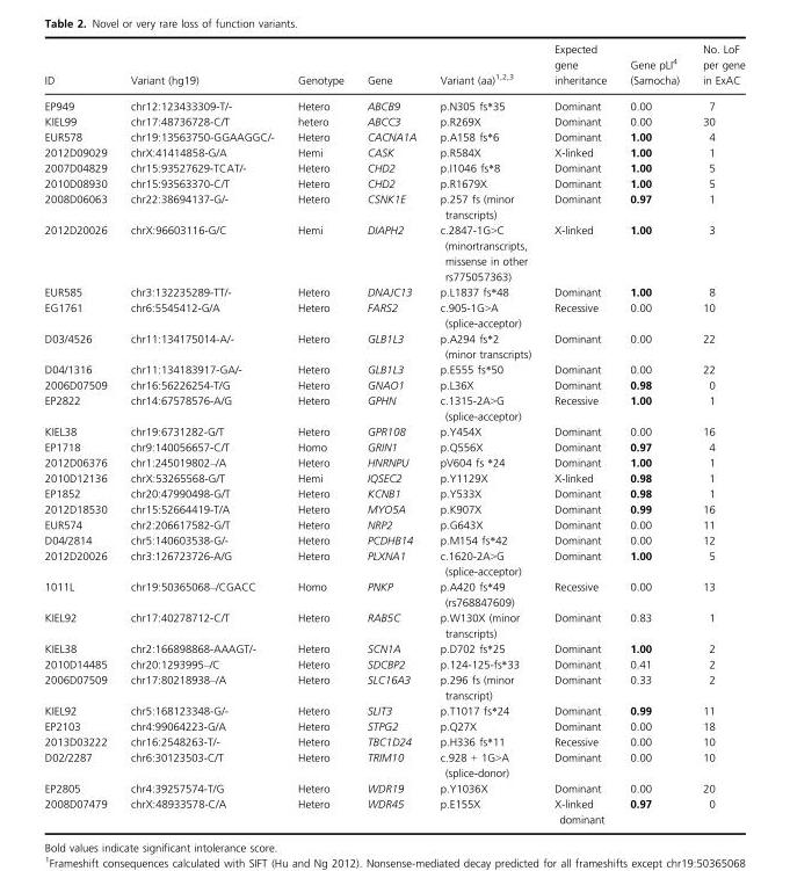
<table><thead><tr><td>ID</td><td>Variant (hg19)</td><td>Genotype</td><td>Gene</td><td>Variant (aa)1,2,3</td><td>Expected gene inheritance</td><td>Gene pLI4 (Samocha)</td><td>No. LoF per gene in ExAC</td></tr></thead><tbody><tr><td>EP949</td><td>chr12:123433309-T/-</td><td>Hetero</td><td>ABCB9</td><td>p.N305 fs*35</td><td>Dominant</td><td>0.00</td><td>7</td></tr><tr><td>KIEL99</td><td>chr17:48736728-C/T</td><td>hetero</td><td>ABCC3</td><td>p.R269X</td><td>Dominant</td><td>0.00</td><td>30</td></tr><tr><td>EUR578</td><td>chr19:13563750-GGAAGGC/-</td><td>Hetero</td><td>CACNA1A</td><td>p.A158 fs*6</td><td>Dominant</td><td>1.00</td><td>4</td></tr><tr><td>2012D09029</td><td>chrX:41414858-G/A</td><td>Hemi</td><td>CASK</td><td>p.R584X</td><td>X-linked</td><td>1.00</td><td>1</td></tr><tr><td>2007D04829</td><td>chr15:93527629-TCAT/-</td><td>Hetero</td><td>CHD2</td><td>p.I1046 fs*8</td><td>Dominant</td><td>1.00</td><td>5</td></tr><tr><td>2010D08930</td><td>chr15:93563370-C/T</td><td>Hetero</td><td>CHD2</td><td>p.R1679X</td><td>Dominant</td><td>1.00</td><td>5</td></tr><tr><td>2008D06063</td><td>chr22:38694137-G/-</td><td>Hetero</td><td>CSNK1E</td><td>p.257 fs (minor transcripts)</td><td>Dominant</td><td>0.97</td><td>1</td></tr><tr><td>2012D20026</td><td>chrX:96603116-G/C</td><td>Hemi</td><td>DIAPH2</td><td>c.2847-1G&gt;C (minortranscripts, missense in other rs775057363)</td><td>X-linked</td><td>1.00</td><td>3</td></tr><tr><td>EUR585</td><td>chr3:132235289-TT/-</td><td>Hetero</td><td>DNAJC13</td><td>p.L1837 fs*48</td><td>Dominant</td><td>1.00</td><td>8</td></tr><tr><td>EG1761</td><td>chr6:5545412-G/A</td><td>Hetero</td><td>FARS2</td><td>c.905-1G&gt;A (splice-acceptor)</td><td>Recessive</td><td>0.00</td><td>10</td></tr><tr><td>D03/4526</td><td>chr11:134175014-A/-</td><td>Hetero</td><td>GLB1L3</td><td>p.A294 fs*2 (minor transcripts)</td><td>Dominant</td><td>0.00</td><td>22</td></tr><tr><td>D04/1316</td><td>chr11:134183917-GA/-</td><td>Hetero</td><td>GLB1L3</td><td>p.E555 fs*50</td><td>Dominant</td><td>0.00</td><td>22</td></tr><tr><td>2006D07509</td><td>chr16:56226254-T/G</td><td>Hetero</td><td>GNAO1</td><td>p.L36X</td><td>Dominant</td><td>0.98</td><td>0</td></tr><tr><td>EP2822</td><td>chr14:67578576-A/G</td><td>Hetero</td><td>GPHN</td><td>c.1315-2A&gt;G (splice-acceptor)</td><td>Recessive</td><td>1.00</td><td>1</td></tr><tr><td>KIEL38</td><td>chr19:6731282-G/T</td><td>Hetero</td><td>GPR108</td><td>p.Y454X</td><td>Dominant</td><td>0.00</td><td>16</td></tr><tr><td>EP1718</td><td>chr9:140056657-C/T</td><td>Homo</td><td>GRIN1</td><td>p.Q556X</td><td>Dominant</td><td>0.97</td><td>4</td></tr><tr><td>2012D06376</td><td>chr1:245019802–/A</td><td>Hetero</td><td>HNRNPU</td><td>pV604 fs *24</td><td>Dominant</td><td>1.00</td><td>1</td></tr><tr><td>2010D12136</td><td>chrX:53265568-G/T</td><td>Hemi</td><td>IQSEC2</td><td>p.Y1129X</td><td>X-linked</td><td>0.98</td><td>1</td></tr><tr><td>EP1852</td><td>chr20:47990498-G/T</td><td>Hetero</td><td>KCNB1</td><td>p.Y533X</td><td>Dominant</td><td>0.98</td><td>1</td></tr><tr><td>2012D18530</td><td>chr15:52664419-T/A</td><td>Hetero</td><td>MYO5A</td><td>p.K907X</td><td>Dominant</td><td>0.99</td><td>16</td></tr><tr><td>EUR574</td><td>chr2:206617582-G/T</td><td>Hetero</td><td>NRP2</td><td>p.G643X</td><td>Dominant</td><td>0.00</td><td>11</td></tr><tr><td>D04/2814</td><td>chr5:140603538-G/-</td><td>Hetero</td><td>PCDHB14</td><td>p.M154 fs*42</td><td>Dominant</td><td>0.00</td><td>12</td></tr><tr><td>2012D20026</td><td>chr3:126723726-A/G</td><td>Hetero</td><td>PLXNA1</td><td>c.1620-2A&gt;G (splice-acceptor)</td><td>Dominant</td><td>1.00</td><td>5</td></tr><tr><td>1011L</td><td>chr19:50365068–/CGACC</td><td>Homo</td><td>PNKP</td><td>p.A420 fs*49 (rs768847609)</td><td>Recessive</td><td>0.00</td><td>13</td></tr><tr><td>KIEL92</td><td>chr17:40278712-C/T</td><td>Hetero</td><td>RAB5C</td><td>p.W130X (minor transcripts)</td><td>Dominant</td><td>0.83</td><td>1</td></tr><tr><td>KIEL38</td><td>chr2:166898868-AAAGT/-</td><td>Hetero</td><td>SCN1A</td><td>p.D702 fs*25</td><td>Dominant</td><td>1.00</td><td>2</td></tr><tr><td>2010D14485</td><td>chr20:1293995–/C</td><td>Hetero</td><td>SDCBP2</td><td>p.124-125-fs*33</td><td>Dominant</td><td>0.41</td><td>2</td></tr><tr><td>2006D07509</td><td>chr17:80218938–/A</td><td>Hetero</td><td>SLC16A3</td><td>p.296 fs (minor transcript)</td><td>Dominant</td><td>0.33</td><td>2</td></tr><tr><td>KIEL92</td><td>chr5:168123348-G/-</td><td>Hetero</td><td>SLIT3</td><td>p.T1017 fs*24</td><td>Dominant</td><td>0.99</td><td>11</td></tr><tr><td>EP2103</td><td>chr4:99064223-G/A</td><td>Hetero</td><td>STPG2</td><td>p.Q27X</td><td>Dominant</td><td>0.00</td><td>18</td></tr><tr><td>2013D03222</td><td>chr16:2548263-T/-</td><td>Hetero</td><td>TBC1D24</td><td>p.H336 fs*11</td><td>Recessive</td><td>0.00</td><td>10</td></tr><tr><td>D02/2287</td><td>chr6:30123503-C/T</td><td>Hetero</td><td>TRIM10</td><td>c.928 + 1G&gt;A (splice-donor)</td><td>Dominant</td><td>0.00</td><td>10</td></tr><tr><td>EP2805</td><td>chr4:39257574-T/G</td><td>Hetero</td><td>WDR19</td><td>p.Y1036X</td><td>Dominant</td><td>0.00</td><td>20</td></tr><tr><td>2008D07479</td><td>chrX:48933578-C/A</td><td>Hetero</td><td>WDR45</td><td>p.E155X</td><td>X-linked dominant</td><td>0.97</td><td>0</td></tr></tbody></table>